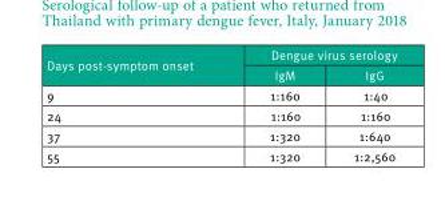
<table><thead><tr><td rowspan="2">Days post-symptom onset</td><td colspan="2">Dengue virus serology</td></tr><tr><td>IgM</td><td>IgG</td></tr></thead><tbody><tr><td>9</td><td>1:160</td><td>1:40</td></tr><tr><td>24</td><td>1:160</td><td>1:160</td></tr><tr><td>37</td><td>1:320</td><td>1:640</td></tr><tr><td>55</td><td>1:320</td><td>1:2,560</td></tr></tbody></table>